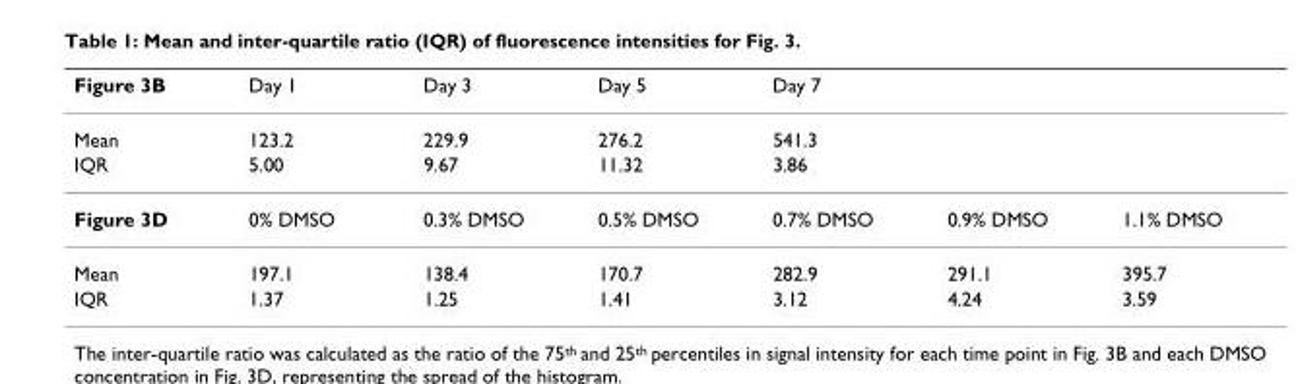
<table><thead><tr><td>Figure 3B</td><td>Day 1</td><td>Day 3</td><td>Day 5</td><td>Day 7</td><td></td><td></td></tr></thead><tbody><tr><td>Mean</td><td>123.2</td><td>229.9</td><td>276.2</td><td>541.3</td><td></td><td></td></tr><tr><td>IQR</td><td>5.00</td><td>9.67</td><td>11.32</td><td>3.86</td><td></td><td></td></tr><tr><td>Figure 3D</td><td>0% DMSO</td><td>0.3% DMSO</td><td>0.5% DMSO</td><td>0.7% DMSO</td><td>0.9% DMSO</td><td>1.1% DMSO</td></tr><tr><td>Mean</td><td>197.1</td><td>138.4</td><td>170.7</td><td>282.9</td><td>291.1</td><td>395.7</td></tr><tr><td>IQR</td><td>1.37</td><td>1.25</td><td>1.41</td><td>3.12</td><td>4.24</td><td>3.59</td></tr></tbody></table>